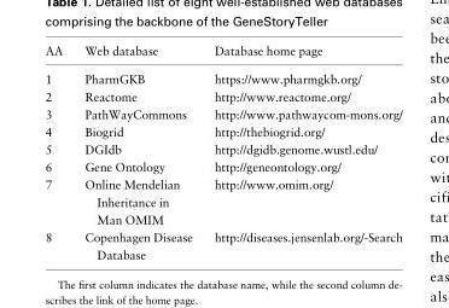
<table><thead><tr><td>AA</td><td>Web database</td><td>Database home page</td></tr></thead><tbody><tr><td>1</td><td>PharmGKB</td><td>https://www.pharmgkb.org/</td></tr><tr><td>2</td><td>Reactome</td><td>http://www.reactome.org/</td></tr><tr><td>3</td><td>PathWayCommons</td><td>http://www.pathwaycom-mons.org/</td></tr><tr><td>4</td><td>Biogrid</td><td>http://thebiogrid.org/</td></tr><tr><td>5</td><td>DGIdb</td><td>http://dgidb.genome.wustl.edu/</td></tr><tr><td>6</td><td>Gene Ontology</td><td>http://geneontology.org/</td></tr><tr><td>7</td><td>Online Mendelian Inheritance in Man OMIM</td><td>http://www.omim.org/</td></tr><tr><td>8</td><td>Copenhagen Disease Database</td><td>http://diseases.jensenlab.org/-Search</td></tr></tbody></table>